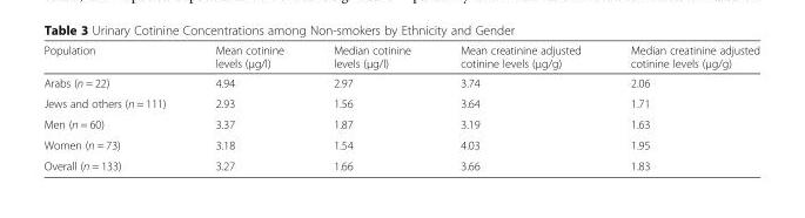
<table><thead><tr><td>Population</td><td>Mean cotinine levels (μg/l)</td><td>Median cotinine levels (μg/l)</td><td>Mean creatinine adjusted cotinine levels (μg/g)</td><td>Median creatinine adjusted cotinine levels (μg/g)</td></tr></thead><tbody><tr><td>Arabs (n = 22)</td><td>4.94</td><td>2.97</td><td>3.74</td><td>2.06</td></tr><tr><td>Jews and others (n = 111)</td><td>2.93</td><td>1.56</td><td>3.64</td><td>1.71</td></tr><tr><td>Men (n = 60)</td><td>3.37</td><td>1.87</td><td>3.19</td><td>1.63</td></tr><tr><td>Women (n = 73)</td><td>3.18</td><td>1.54</td><td>4.03</td><td>1.95</td></tr><tr><td>Overall (n = 133)</td><td>3.27</td><td>1.66</td><td>3.66</td><td>1.83</td></tr></tbody></table>